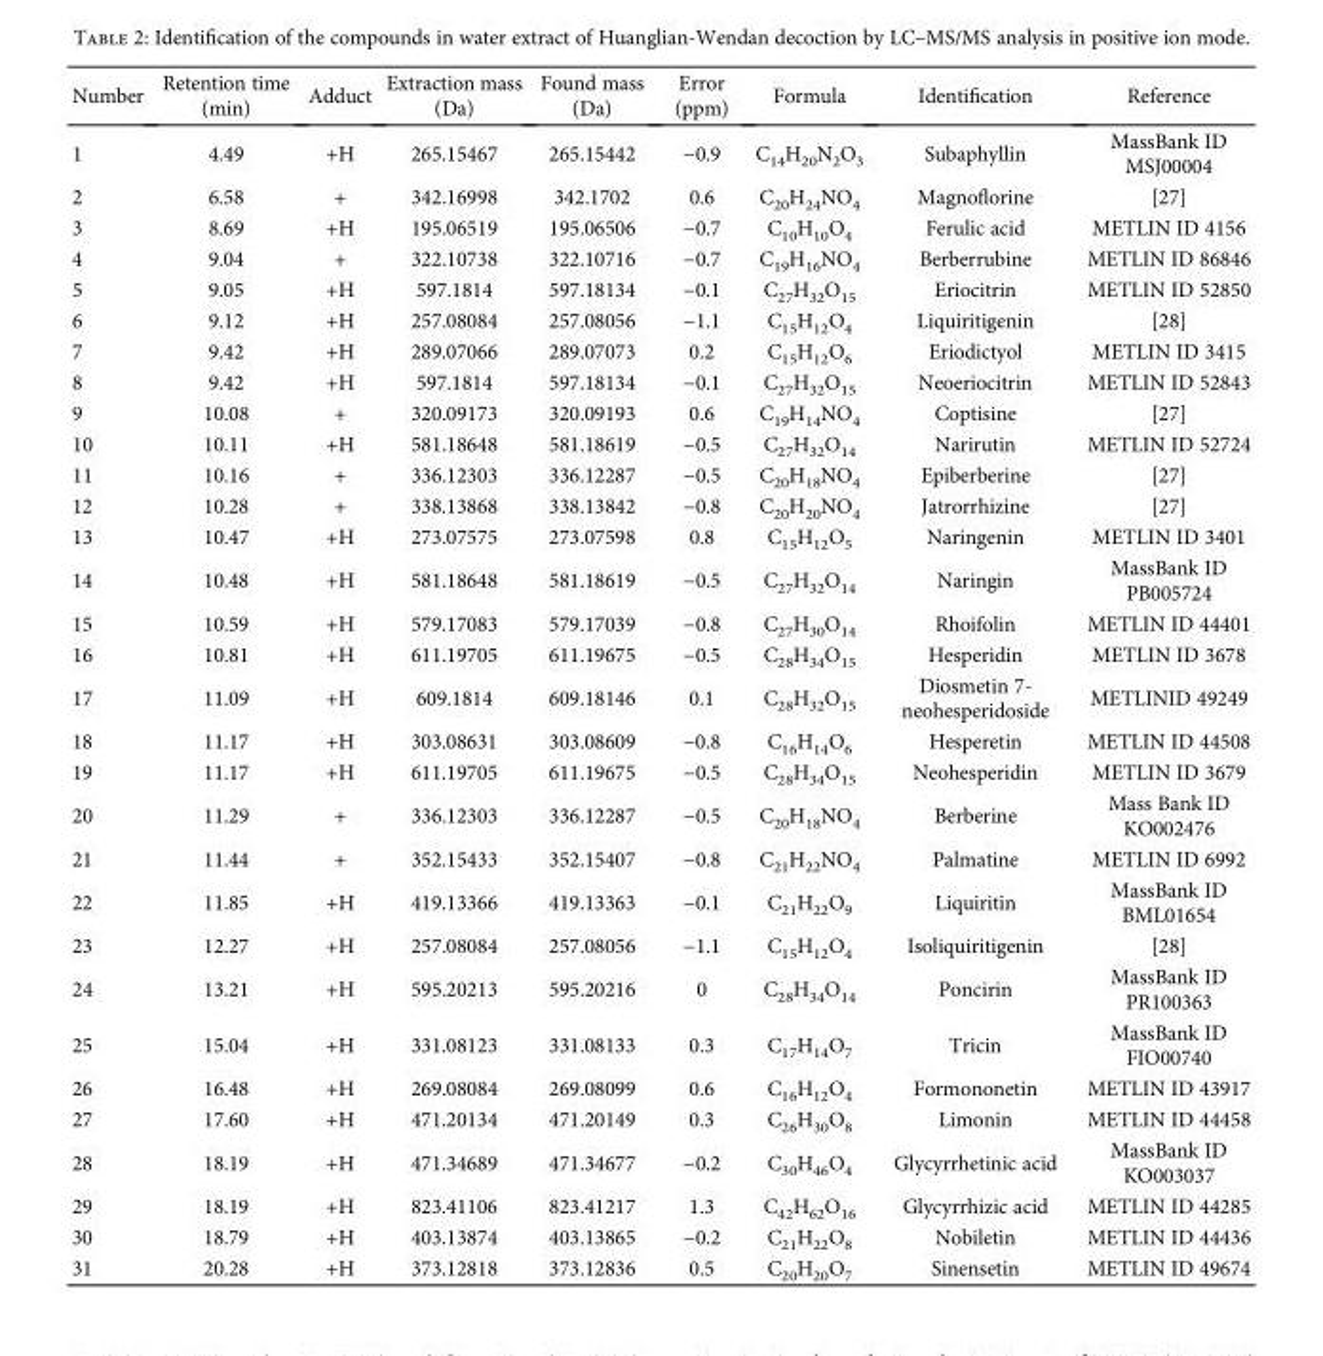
<table><thead><tr><td>Number</td><td>Retention time (min)</td><td>Adduct</td><td>Extraction mass (Da)</td><td>Found mass (Da)</td><td>Error (ppm)</td><td>Formula</td><td>Identification</td><td>Reference</td></tr></thead><tbody><tr><td>1</td><td>4.49</td><td>+H</td><td>265.15467</td><td>265.15442</td><td>−0.9</td><td>C<sub>14</sub>H<sub>20</sub>N<sub>2</sub>O<sub>3</sub></td><td>Subaphyllin</td><td>MassBank ID MSJ00004</td></tr><tr><td>2</td><td>6.58</td><td>+</td><td>342.16998</td><td>342.1702</td><td>0.6</td><td>C<sub>20</sub>H<sub>24</sub>NO<sub>4</sub></td><td>Magnoflorine</td><td>[27]</td></tr><tr><td>3</td><td>8.69</td><td>+H</td><td>195.06519</td><td>195.06506</td><td>−0.7</td><td>C<sub>10</sub>H<sub>10</sub>O<sub>4</sub></td><td>Ferulic acid</td><td>METLIN ID 4156</td></tr><tr><td>4</td><td>9.04</td><td>+</td><td>322.10738</td><td>322.10716</td><td>−0.7</td><td>C<sub>19</sub>H<sub>16</sub>NO<sub>4</sub></td><td>Berberrubine</td><td>METLIN ID 86846</td></tr><tr><td>5</td><td>9.05</td><td>+H</td><td>597.1814</td><td>597.18134</td><td>−0.1</td><td>C<sub>27</sub>H<sub>32</sub>O<sub>15</sub></td><td>Eriocitrin</td><td>METLIN ID 52850</td></tr><tr><td>6</td><td>9.12</td><td>+H</td><td>257.08084</td><td>257.08056</td><td>−1.1</td><td>C<sub>15</sub>H<sub>12</sub>O<sub>4</sub></td><td>Liquiritigenin</td><td>[28]</td></tr><tr><td>7</td><td>9.42</td><td>+H</td><td>289.07066</td><td>289.07073</td><td>0.2</td><td>C<sub>15</sub>H<sub>12</sub>O<sub>6</sub></td><td>Eriodictyol</td><td>METLIN ID 3415</td></tr><tr><td>8</td><td>9.42</td><td>+H</td><td>597.1814</td><td>597.18134</td><td>−0.1</td><td>C<sub>27</sub>H<sub>32</sub>O<sub>15</sub></td><td>Neoeriocitrin</td><td>METLIN ID 52843</td></tr><tr><td>9</td><td>10.08</td><td>+</td><td>320.09173</td><td>320.09193</td><td>0.6</td><td>C<sub>19</sub>H<sub>14</sub>NO<sub>4</sub></td><td>Coptisine</td><td>[27]</td></tr><tr><td>10</td><td>10.11</td><td>+H</td><td>581.18648</td><td>581.18619</td><td>−0.5</td><td>C<sub>27</sub>H<sub>32</sub>O<sub>14</sub></td><td>Narirutin</td><td>METLIN ID 52724</td></tr><tr><td>11</td><td>10.16</td><td>+</td><td>336.12303</td><td>336.12287</td><td>−0.5</td><td>C<sub>20</sub>H<sub>18</sub>NO<sub>4</sub></td><td>Epiberberine</td><td>[27]</td></tr><tr><td>12</td><td>10.28</td><td>+</td><td>338.13868</td><td>338.13842</td><td>−0.8</td><td>C<sub>20</sub>H<sub>20</sub>NO<sub>4</sub></td><td>Jatrorrhizine</td><td>[27]</td></tr><tr><td>13</td><td>10.47</td><td>+H</td><td>273.07575</td><td>273.07598</td><td>0.8</td><td>C<sub>15</sub>H<sub>12</sub>O<sub>5</sub></td><td>Naringenin</td><td>METLIN ID 3401</td></tr><tr><td>14</td><td>10.48</td><td>+H</td><td>581.18648</td><td>581.18619</td><td>−0.5</td><td>C<sub>27</sub>H<sub>32</sub>O<sub>14</sub></td><td>Naringin</td><td>MassBank ID PB005724</td></tr><tr><td>15</td><td>10.59</td><td>+H</td><td>579.17083</td><td>579.17039</td><td>−0.8</td><td>C<sub>27</sub>H<sub>30</sub>O<sub>14</sub></td><td>Rhoifolin</td><td>METLIN ID 44401</td></tr><tr><td>16</td><td>10.81</td><td>+H</td><td>611.19705</td><td>611.19675</td><td>−0.5</td><td>C<sub>28</sub>H<sub>34</sub>O<sub>15</sub></td><td>Hesperidin</td><td>METLIN ID 3678</td></tr><tr><td>17</td><td>11.09</td><td>+H</td><td>609.1814</td><td>609.18146</td><td>0.1</td><td>C<sub>28</sub>H<sub>32</sub>O<sub>15</sub></td><td>Diosmetin 7- neohesperidoside</td><td>METLINID 49249</td></tr><tr><td>18</td><td>11.17</td><td>+H</td><td>303.08631</td><td>303.08609</td><td>−0.8</td><td>C<sub>16</sub>H<sub>14</sub>O<sub>6</sub></td><td>Hesperetin</td><td>METLIN ID 44508</td></tr><tr><td>19</td><td>11.17</td><td>+H</td><td>611.19705</td><td>611.19675</td><td>−0.5</td><td>C<sub>28</sub>H<sub>34</sub>O<sub>15</sub></td><td>Neohesperidin</td><td>METLIN ID 3679</td></tr><tr><td>20</td><td>11.29</td><td>+</td><td>336.12303</td><td>336.12287</td><td>−0.5</td><td>C<sub>20</sub>H<sub>18</sub>NO<sub>4</sub></td><td>Berberine</td><td>Mass Bank ID KO002476</td></tr><tr><td>21</td><td>11.44</td><td>+</td><td>352.15433</td><td>352.15407</td><td>−0.8</td><td>C<sub>21</sub>H<sub>22</sub>NO<sub>4</sub></td><td>Palmatine</td><td>METLIN ID 6992</td></tr><tr><td>22</td><td>11.85</td><td>+H</td><td>419.13366</td><td>419.13363</td><td>−0.1</td><td>C<sub>21</sub>H<sub>22</sub>O<sub>9</sub></td><td>Liquiritin</td><td>MassBank ID BML01654</td></tr><tr><td>23</td><td>12.27</td><td>+H</td><td>257.08084</td><td>257.08056</td><td>−1.1</td><td>C<sub>15</sub>H<sub>12</sub>O<sub>4</sub></td><td>Isoliquiritigenin</td><td>[28]</td></tr><tr><td>24</td><td>13.21</td><td>+H</td><td>595.20213</td><td>595.20216</td><td>0</td><td>C<sub>28</sub>H<sub>34</sub>O<sub>14</sub></td><td>Poncirin</td><td>MassBank ID PR100363</td></tr><tr><td>25</td><td>15.04</td><td>+H</td><td>331.08123</td><td>331.08133</td><td>0.3</td><td>C<sub>17</sub>H<sub>14</sub>O<sub>7</sub></td><td>Tricin</td><td>MassBank ID FIO00740</td></tr><tr><td>26</td><td>16.48</td><td>+H</td><td>269.08084</td><td>269.08099</td><td>0.6</td><td>C<sub>16</sub>H<sub>12</sub>O<sub>4</sub></td><td>Formononetin</td><td>METLIN ID 43917</td></tr><tr><td>27</td><td>17.60</td><td>+H</td><td>471.20134</td><td>471.20149</td><td>0.3</td><td>C<sub>26</sub>H<sub>30</sub>O<sub>8</sub></td><td>Limonin</td><td>METLIN ID 44458</td></tr><tr><td>28</td><td>18.19</td><td>+H</td><td>471.34689</td><td>471.34677</td><td>−0.2</td><td>C<sub>30</sub>H<sub>46</sub>O<sub>4</sub></td><td>Glycyrrhetinic acid</td><td>MassBank ID KO003037</td></tr><tr><td>29</td><td>18.19</td><td>+H</td><td>823.41106</td><td>823.41217</td><td>1.3</td><td>C<sub>42</sub>H<sub>62</sub>O<sub>16</sub></td><td>Glycyrrhizic acid</td><td>METLIN ID 44285</td></tr><tr><td>30</td><td>18.79</td><td>+H</td><td>403.13874</td><td>403.13865</td><td>−0.2</td><td>C<sub>21</sub>H<sub>22</sub>O<sub>8</sub></td><td>Nobiletin</td><td>METLIN ID 44436</td></tr><tr><td>31</td><td>20.28</td><td>+H</td><td>373.12818</td><td>373.12836</td><td>0.5</td><td>C<sub>20</sub>H<sub>20</sub>O<sub>7</sub></td><td>Sinensetin</td><td>METLIN ID 49674</td></tr></tbody></table>